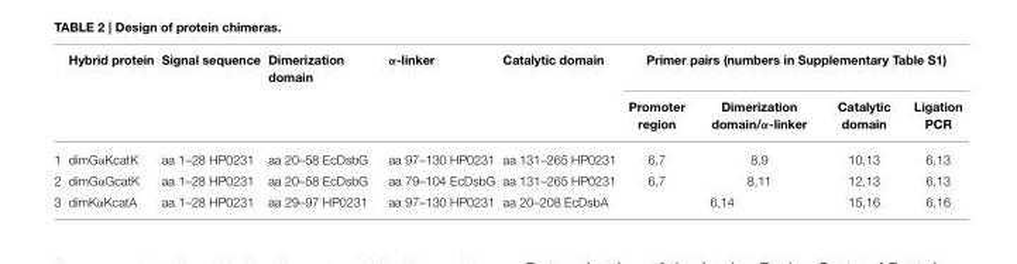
<table><thead><tr><td rowspan="2"></td><td rowspan="2">Hybrid protein</td><td rowspan="2">Signal sequence</td><td rowspan="2">Dimerization domain</td><td rowspan="2">α-linker</td><td rowspan="2">Catalytic domain</td><td colspan="4">Primer pairs (numbers in Supplementary Table S1)</td></tr><tr><td>Promoter region</td><td>Dimerization domain/α-linker</td><td>Catalytic domain</td><td>Ligation PCR</td></tr></thead><tbody><tr><td>1</td><td>dimGαKcatK</td><td>aa 1–28 HP0231</td><td>aa 20–58 EcDsbG</td><td>aa 97–130 HP0231</td><td>aa 131–265 HP0231</td><td>6,7</td><td>8,9</td><td>10,13</td><td>6,13</td></tr><tr><td>2</td><td>dimGαGcatK</td><td>aa 1–28 HP0231</td><td>aa 20–58 EcDsbG</td><td>aa 79–104 EcDsbG</td><td>aa 131–265 HP0231</td><td>6,7</td><td>8,11</td><td>12,13</td><td>6,13</td></tr><tr><td>3</td><td>dimKαKcatA</td><td>aa 1–28 HP0231</td><td>aa 29–97 HP0231</td><td>aa 97–130 HP0231</td><td>aa 20–208 EcDsbA</td><td colspan="2">6,14</td><td>15,16</td><td>6,16</td></tr></tbody></table>